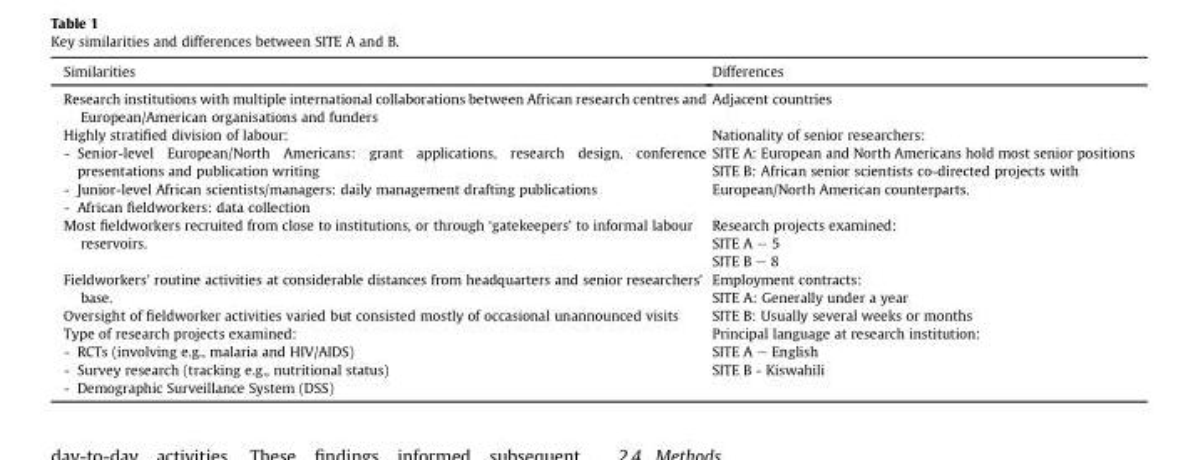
<table><thead><tr><td>Similarities</td><td>Differences</td></tr></thead><tbody><tr><td>Research institutions with multiple international collaborations between African research centres and European/American organisations and funders</td><td>Adjacent countries</td></tr><tr><td>Highly stratified division of labour: - Senior-level European/North Americans: grant applications, research design, conference presentations and publication writing - Junior-level African scientists/managers: daily management drafting publications - African fieldworkers: data collection</td><td>Nationality of senior researchers: SITE A: European and North Americans hold most senior positions SITE B: African senior scientists co-directed projects with European/North American counterparts.</td></tr><tr><td>Most fieldworkers recruited from close to institutions, or through ‘gatekeepers’ to informal labour reservoirs.</td><td>Research projects examined: SITE A – 5 SITE B – 8</td></tr><tr><td>Fieldworkers&#x27; routine activities at considerable distances from headquarters and senior researchers&#x27; base. Oversight of fieldworker activities varied but consisted mostly of occasional unannounced visits</td><td>Employment contracts: SITE A: Generally under a year SITE B: Usually several weeks or months</td></tr><tr><td>Type of research projects examined: - RCTs (involving e.g., malaria and HIV/AIDS) - Survey research (tracking e.g., nutritional status) - Demographic Surveillance System (DSS)</td><td>Principal language at research institution: SITE A – English SITE B - Kiswahili</td></tr></tbody></table>